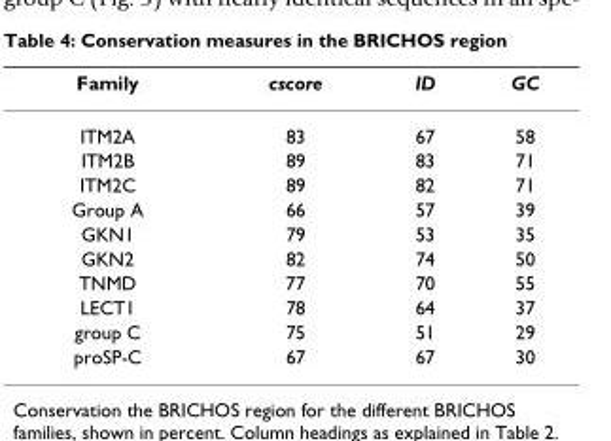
<table><thead><tr><td>Family</td><td>cscore</td><td>ID</td><td>GC</td></tr></thead><tbody><tr><td>ITM2A</td><td>83</td><td>67</td><td>58</td></tr><tr><td>ITM2B</td><td>89</td><td>83</td><td>71</td></tr><tr><td>ITM2C</td><td>89</td><td>82</td><td>71</td></tr><tr><td>Group A</td><td>66</td><td>57</td><td>39</td></tr><tr><td>GKN1</td><td>79</td><td>53</td><td>35</td></tr><tr><td>GKN2</td><td>82</td><td>74</td><td>50</td></tr><tr><td>TNMD</td><td>77</td><td>70</td><td>55</td></tr><tr><td>LECT1</td><td>78</td><td>64</td><td>37</td></tr><tr><td>group C</td><td>75</td><td>51</td><td>29</td></tr><tr><td>proSP-C</td><td>67</td><td>67</td><td>30</td></tr></tbody></table>